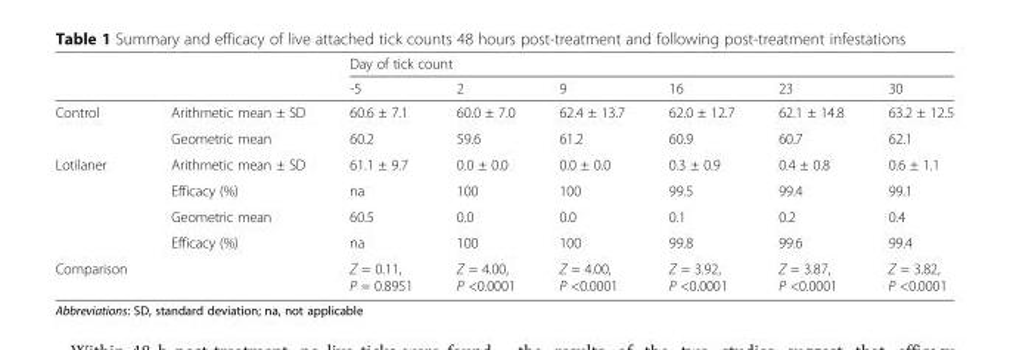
<table><thead><tr><td rowspan="2"></td><td rowspan="2"></td><td colspan="6">Day of tick count</td></tr><tr><td>-5</td><td>2</td><td>9</td><td>16</td><td>23</td><td>30</td></tr></thead><tbody><tr><td rowspan="2">Control</td><td>Arithmetic mean ± SD</td><td>60.6 ± 7.1</td><td>60.0 ± 7.0</td><td>62.4 ± 13.7</td><td>62.0 ± 12.7</td><td>62.1 ± 14.8</td><td>63.2 ± 12.5</td></tr><tr><td>Geometric mean</td><td>60.2</td><td>59.6</td><td>61.2</td><td>60.9</td><td>60.7</td><td>62.1</td></tr><tr><td rowspan="4">Lotilaner</td><td>Arithmetic mean ± SD</td><td>61.1 ± 9.7</td><td>0.0 ± 0.0</td><td>0.0 ± 0.0</td><td>0.3 ± 0.9</td><td>0.4 ± 0.8</td><td>0.6 ± 1.1</td></tr><tr><td>Efficacy (%)</td><td>na</td><td>100</td><td>100</td><td>99.5</td><td>99.4</td><td>99.1</td></tr><tr><td>Geometric mean</td><td>60.5</td><td>0.0</td><td>0.0</td><td>0.1</td><td>0.2</td><td>0.4</td></tr><tr><td>Efficacy (%)</td><td>na</td><td>100</td><td>100</td><td>99.8</td><td>99.6</td><td>99.4</td></tr><tr><td>Comparison</td><td></td><td>Z = 0.11, P = 0.8951</td><td>Z = 4.00, P &lt;0.0001</td><td>Z = 4.00, P &lt;0.0001</td><td>Z = 3.92, P &lt;0.0001</td><td>Z = 3.87, P &lt;0.0001</td><td>Z = 3.82, P &lt;0.0001</td></tr></tbody></table>